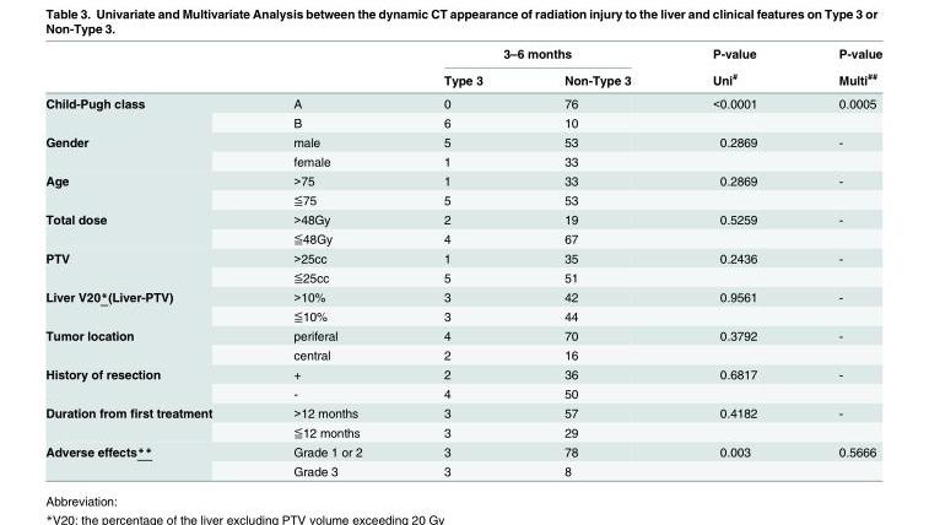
<table><thead><tr><td rowspan="2"></td><td rowspan="2"></td><td colspan="2">3–6 months</td><td rowspan="2">P-value Uni<sup>#</sup></td><td rowspan="2">P-value Multi<sup>##</sup></td></tr><tr><td>Type 3</td><td>Non-Type 3</td></tr></thead><tbody><tr><td rowspan="2">Child-Pugh class</td><td>A</td><td>0</td><td>76</td><td>&lt;0.0001</td><td>0.0005</td></tr><tr><td>B</td><td>6</td><td>10</td><td></td><td></td></tr><tr><td rowspan="2">Gender</td><td>male</td><td>5</td><td>53</td><td>0.2869</td><td>-</td></tr><tr><td>female</td><td>1</td><td>33</td><td></td><td></td></tr><tr><td rowspan="2">Age</td><td>&gt;75</td><td>1</td><td>33</td><td>0.2869</td><td>-</td></tr><tr><td>≦75</td><td>5</td><td>53</td><td></td><td></td></tr><tr><td rowspan="2">Total dose</td><td>&gt;48Gy</td><td>2</td><td>19</td><td>0.5259</td><td>-</td></tr><tr><td>≦48Gy</td><td>4</td><td>67</td><td></td><td></td></tr><tr><td rowspan="2">PTV</td><td>&gt;25cc</td><td>1</td><td>35</td><td>0.2436</td><td>-</td></tr><tr><td>≦25cc</td><td>5</td><td>51</td><td></td><td></td></tr><tr><td rowspan="2">Liver V20*(Liver-PTV)</td><td>&gt;10%</td><td>3</td><td>42</td><td>0.9561</td><td>-</td></tr><tr><td>≦10%</td><td>3</td><td>44</td><td></td><td></td></tr><tr><td rowspan="2">Tumor location</td><td>periferal</td><td>4</td><td>70</td><td>0.3792</td><td>-</td></tr><tr><td>central</td><td>2</td><td>16</td><td></td><td></td></tr><tr><td rowspan="2">History of resection</td><td>+</td><td>2</td><td>36</td><td>0.6817</td><td>-</td></tr><tr><td>-</td><td>4</td><td>50</td><td></td><td></td></tr><tr><td rowspan="2">Duration from first treatment</td><td>&gt;12 months</td><td>3</td><td>57</td><td>0.4182</td><td>-</td></tr><tr><td>≦12 months</td><td>3</td><td>29</td><td></td><td></td></tr><tr><td rowspan="2">Adverse effects**</td><td>Grade 1 or 2</td><td>3</td><td>78</td><td>0.003</td><td>0.5666</td></tr><tr><td>Grade 3</td><td>3</td><td>8</td><td></td><td></td></tr></tbody></table>